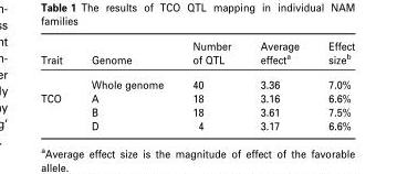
<table><thead><tr><td>Trait</td><td>Genome</td><td>Number of QTL</td><td>Average effect<sup>a</sup></td><td>Effect size<sup>b</sup></td></tr></thead><tbody><tr><td></td><td>Whole genome</td><td>40</td><td>3.36</td><td>7.0%</td></tr><tr><td rowspan="3">TCO</td><td>A</td><td>18</td><td>3.16</td><td>6.6%</td></tr><tr><td>B</td><td>18</td><td>3.61</td><td>7.5%</td></tr><tr><td>D</td><td>4</td><td>3.17</td><td>6.6%</td></tr></tbody></table>